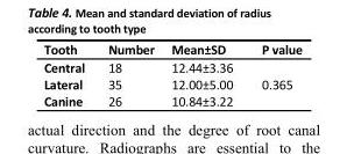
<table><thead><tr><td>Tooth</td><td>Number</td><td>Mean±SD</td><td>P value</td></tr></thead><tbody><tr><td>Central</td><td>18</td><td>12.44±3.36</td><td rowspan="3">0.365</td></tr><tr><td>Lateral</td><td>35</td><td>12.00±5.00</td></tr><tr><td>Canine</td><td>26</td><td>10.84±3.22</td></tr></tbody></table>